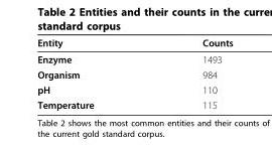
<table><thead><tr><td>Entity</td><td>Counts</td></tr></thead><tbody><tr><td>Enzyme</td><td>1493</td></tr><tr><td>Organism</td><td>984</td></tr><tr><td>pH</td><td>110</td></tr><tr><td>Temperature</td><td>115</td></tr></tbody></table>